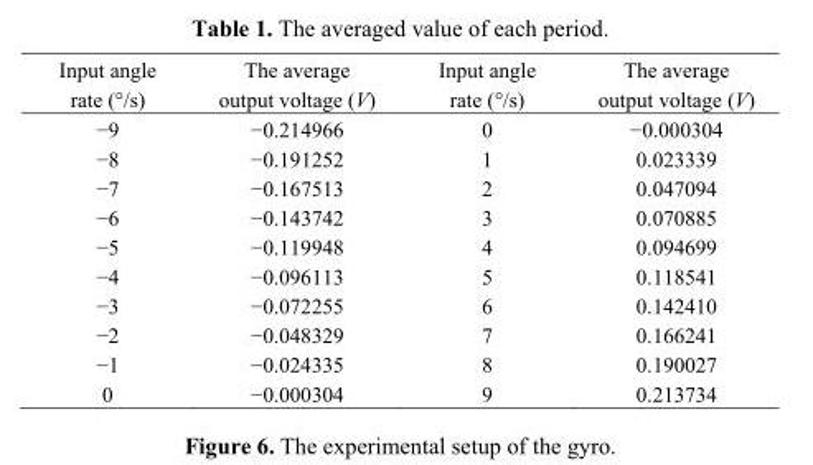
<table><thead><tr><td>Input angle rate (°/s)</td><td>The average output voltage (V)</td><td>Input angle rate (°/s)</td><td>The average output voltage (V)</td></tr></thead><tbody><tr><td>−9</td><td>−0.214966</td><td>0</td><td>−0.000304</td></tr><tr><td>−8</td><td>−0.191252</td><td>1</td><td>0.023339</td></tr><tr><td>−7</td><td>−0.167513</td><td>2</td><td>0.047094</td></tr><tr><td>−6</td><td>−0.143742</td><td>3</td><td>0.070885</td></tr><tr><td>−5</td><td>−0.119948</td><td>4</td><td>0.094699</td></tr><tr><td>−4</td><td>−0.096113</td><td>5</td><td>0.118541</td></tr><tr><td>−3</td><td>−0.072255</td><td>6</td><td>0.142410</td></tr><tr><td>−2</td><td>−0.048329</td><td>7</td><td>0.166241</td></tr><tr><td>−1</td><td>−0.024335</td><td>8</td><td>0.190027</td></tr><tr><td>0</td><td>−0.000304</td><td>9</td><td>0.213734</td></tr></tbody></table>